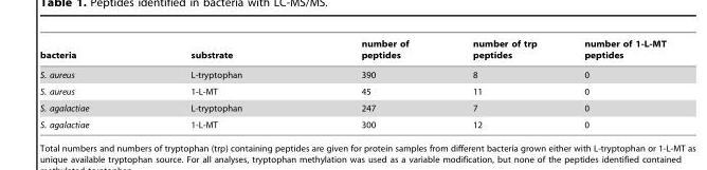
<table><thead><tr><td>bacteria</td><td>substrate</td><td>number of peptides</td><td>number of trp peptides</td><td>number of 1-L-MT peptides</td></tr></thead><tbody><tr><td>S. aureus</td><td>L-tryptophan</td><td>390</td><td>8</td><td>0</td></tr><tr><td>S. aureus</td><td>1-L-MT</td><td>45</td><td>11</td><td>0</td></tr><tr><td>S. agalactiae</td><td>L-tryptophan</td><td>247</td><td>7</td><td>0</td></tr><tr><td>S. agalactiae</td><td>1-L-MT</td><td>300</td><td>12</td><td>0</td></tr></tbody></table>